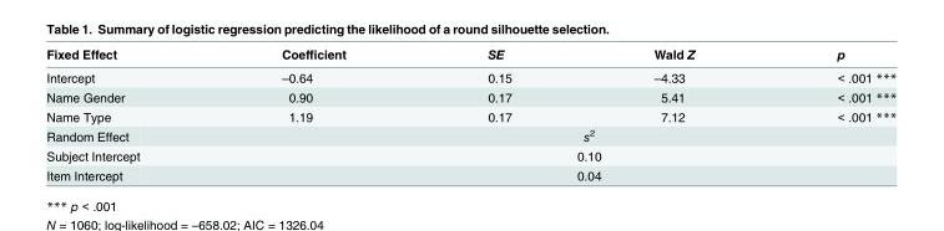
<table><thead><tr><td>Fixed Effect</td><td>Coefficient</td><td>SE</td><td>Wald Z</td><td>p</td></tr></thead><tbody><tr><td>Intercept</td><td>–0.64</td><td>0.15</td><td>–4.33</td><td>&lt; .001 ***</td></tr><tr><td>Name Gender</td><td>0.90</td><td>0.17</td><td>5.41</td><td>&lt; .001 ***</td></tr><tr><td>Name Type</td><td>1.19</td><td>0.17</td><td>7.12</td><td>&lt; .001 ***</td></tr><tr><td>Random Effect</td><td colspan="4">s<sup>2</sup></td></tr><tr><td>Subject Intercept</td><td colspan="4">0.10</td></tr><tr><td>Item Intercept</td><td colspan="4">0.04</td></tr></tbody></table>